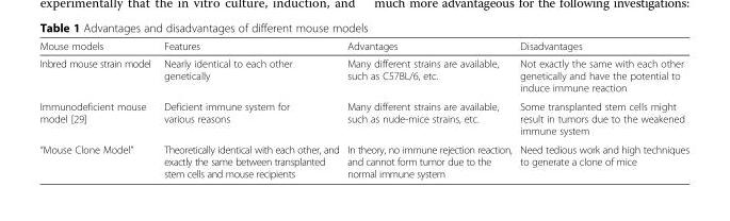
<table><thead><tr><td>Mouse models</td><td>Features</td><td>Advantages</td><td>Disadvantages</td></tr></thead><tbody><tr><td>Inbred mouse strain model</td><td>Nearly identical to each other genetically</td><td>Many different strains are available, such as C57BL/6, etc.</td><td>Not exactly the same with each other genetically and have the potential to induce immune reaction</td></tr><tr><td>Immunodeficient mouse model [29]</td><td>Deficient immune system for various reasons</td><td>Many different strains are available, such as nude-mice strains, etc.</td><td>Some transplanted stem cells might result in tumors due to the weakened immune system</td></tr><tr><td>“Mouse Clone Model”</td><td>Theoretically identical with each other, and exactly the same between transplanted stem cells and mouse recipients</td><td>In theory, no immune rejection reaction, and cannot form tumor due to the normal immune system</td><td>Need tedious work and high techniques to generate a clone of mice</td></tr></tbody></table>